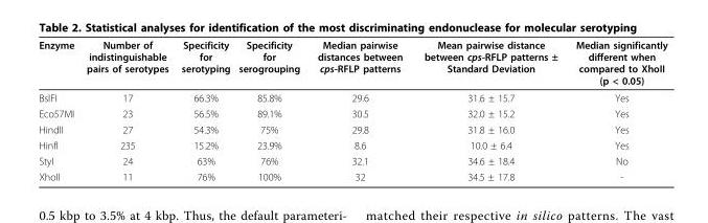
<table><thead><tr><td>Enzyme</td><td>Number of indistinguishable pairs of serotypes</td><td>Specificity for serotyping</td><td>Specificity for serogrouping</td><td>Median pairwise distances between cps-RFLP patterns</td><td>Mean pairwise distance between cps-RFLP patterns ± Standard Deviation</td><td>Median significantly different when compared to XhoII (p &lt; 0.05)</td></tr></thead><tbody><tr><td>BslFI</td><td>17</td><td>66.3%</td><td>85.8%</td><td>29.6</td><td>31.6 ± 15.7</td><td>Yes</td></tr><tr><td>Eco57MI</td><td>23</td><td>56.5%</td><td>89.1%</td><td>30.5</td><td>32.0 ± 15.2</td><td>Yes</td></tr><tr><td>HindII</td><td>27</td><td>54.3%</td><td>75%</td><td>29.8</td><td>31.8 ± 16.0</td><td>Yes</td></tr><tr><td>HinfI</td><td>235</td><td>15.2%</td><td>23.9%</td><td>8.6</td><td>10.0 ± 6.4</td><td>Yes</td></tr><tr><td>StyI</td><td>24</td><td>63%</td><td>76%</td><td>32.1</td><td>34.6 ± 18.4</td><td>No</td></tr><tr><td>XhoII</td><td>11</td><td>76%</td><td>100%</td><td>32</td><td>34.5 ± 17.8</td><td>-</td></tr></tbody></table>